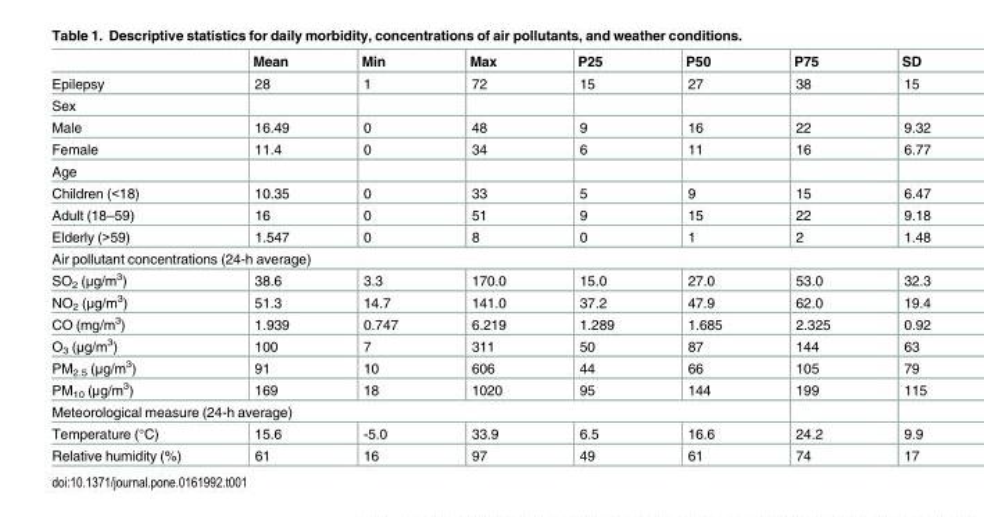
<table><thead><tr><td></td><td>Mean</td><td>Min</td><td>Max</td><td>P25</td><td>P50</td><td>P75</td><td>SD</td></tr></thead><tbody><tr><td>Epilepsy</td><td>28</td><td>1</td><td>72</td><td>15</td><td>27</td><td>38</td><td>15</td></tr><tr><td colspan="8">Sex</td></tr><tr><td>Male</td><td>16.49</td><td>0</td><td>48</td><td>9</td><td>16</td><td>22</td><td>9.32</td></tr><tr><td>Female</td><td>11.4</td><td>0</td><td>34</td><td>6</td><td>11</td><td>16</td><td>6.77</td></tr><tr><td colspan="8">Age</td></tr><tr><td>Children (&lt;18)</td><td>10.35</td><td>0</td><td>33</td><td>5</td><td>9</td><td>15</td><td>6.47</td></tr><tr><td>Adult (18–59)</td><td>16</td><td>0</td><td>51</td><td>9</td><td>15</td><td>22</td><td>9.18</td></tr><tr><td>Elderly (&gt;59)</td><td>1.547</td><td>0</td><td>8</td><td>0</td><td>1</td><td>2</td><td>1.48</td></tr><tr><td colspan="8">Air pollutant concentrations (24-h average)</td></tr><tr><td>SO<sub>2</sub> (μg/m<sup>3</sup>)</td><td>38.6</td><td>3.3</td><td>170.0</td><td>15.0</td><td>27.0</td><td>53.0</td><td>32.3</td></tr><tr><td>NO<sub>2</sub> (μg/m<sup>3</sup>)</td><td>51.3</td><td>14.7</td><td>141.0</td><td>37.2</td><td>47.9</td><td>62.0</td><td>19.4</td></tr><tr><td>CO (mg/m<sup>3</sup>)</td><td>1.939</td><td>0.747</td><td>6.219</td><td>1.289</td><td>1.685</td><td>2.325</td><td>0.92</td></tr><tr><td>O<sub>3</sub> (μg/m<sup>3</sup>)</td><td>100</td><td>7</td><td>311</td><td>50</td><td>87</td><td>144</td><td>63</td></tr><tr><td>PM<sub>2.5</sub> (μg/m<sup>3</sup>)</td><td>91</td><td>10</td><td>606</td><td>44</td><td>66</td><td>105</td><td>79</td></tr><tr><td>PM<sub>10</sub> (μg/m<sup>3</sup>)</td><td>169</td><td>18</td><td>1020</td><td>95</td><td>144</td><td>199</td><td>115</td></tr><tr><td colspan="8">Meteorological measure (24-h average)</td></tr><tr><td>Temperature (°C)</td><td>15.6</td><td>-5.0</td><td>33.9</td><td>6.5</td><td>16.6</td><td>24.2</td><td>9.9</td></tr><tr><td>Relative humidity (%)</td><td>61</td><td>16</td><td>97</td><td>49</td><td>61</td><td>74</td><td>17</td></tr></tbody></table>